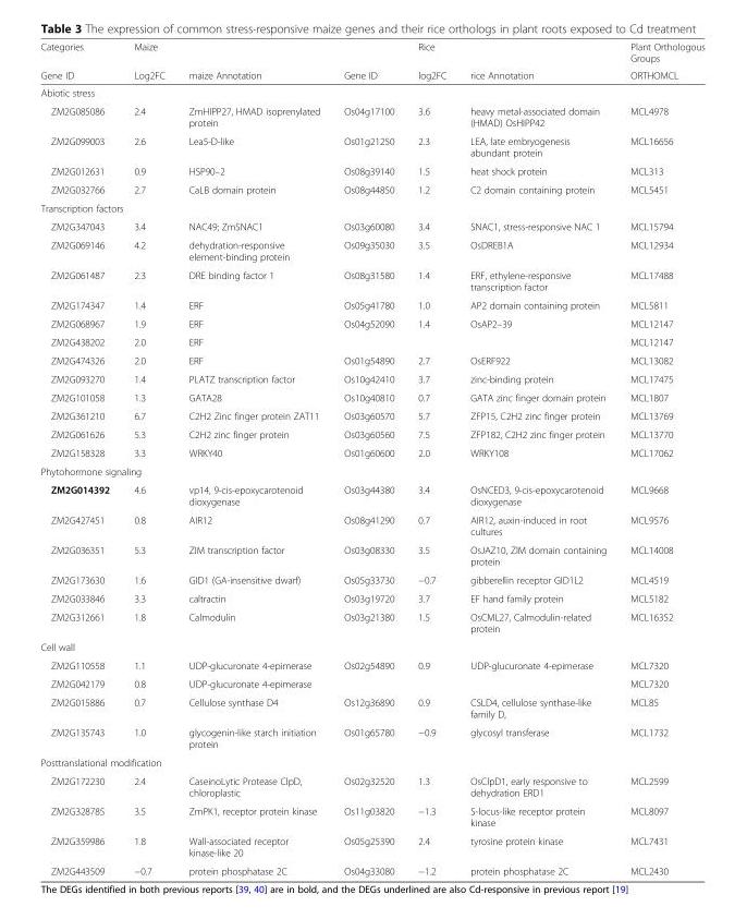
<table><thead><tr><td rowspan="2">Categories Gene ID</td><td rowspan="2">Maize Log2FC</td><td rowspan="2">maize Annotation</td><td rowspan="2">Gene ID</td><td rowspan="2">Rice log2FC</td><td rowspan="2">rice Annotation</td><td rowspan="2">Plant Orthologous Groups ORTHOMCL</td></tr><tr></tr></thead><tbody><tr><td colspan="7">Abiotic stress</td></tr><tr><td>ZM2G085086</td><td>2.4</td><td>ZmHIPP27, HMAD isoprenylated protein</td><td>Os04g17100</td><td>3.6</td><td>heavy metal-associated domain (HMAD) OsHIPP42</td><td>MCL4978</td></tr><tr><td>ZM2G099003</td><td>2.6</td><td>Lea5-D-like</td><td>Os01g21250</td><td>2.3</td><td>LEA, late embryogenesis abundant protein</td><td>MCL16656</td></tr><tr><td>ZM2G012631</td><td>0.9</td><td>HSP90–2</td><td>Os08g39140</td><td>1.5</td><td>heat shock protein</td><td>MCL313</td></tr><tr><td>ZM2G032766</td><td>2.7</td><td>CaLB domain protein</td><td>Os08g44850</td><td>1.2</td><td>C2 domain containing protein</td><td>MCL5451</td></tr><tr><td colspan="7">Transcription factors</td></tr><tr><td>ZM2G347043</td><td>3.4</td><td>NAC49; ZmSNAC1</td><td>Os03g60080</td><td>3.4</td><td>SNAC1, stress-responsive NAC 1</td><td>MCL15794</td></tr><tr><td>ZM2G069146</td><td>4.2</td><td>dehydration-responsive element-binding protein</td><td>Os09g35030</td><td>3.5</td><td>OsDREB1A</td><td>MCL12934</td></tr><tr><td>ZM2G061487</td><td>2.3</td><td>DRE binding factor 1</td><td>Os08g31580</td><td>1.4</td><td>ERF, ethylene-responsive transcription factor</td><td>MCL17488</td></tr><tr><td>ZM2G174347</td><td>1.4</td><td>ERF</td><td>Os05g41780</td><td>1.0</td><td>AP2 domain containing protein</td><td>MCL5811</td></tr><tr><td>ZM2G068967</td><td>1.9</td><td>ERF</td><td>Os04g52090</td><td>1.4</td><td>OsAP2–39</td><td>MCL12147</td></tr><tr><td>ZM2G438202</td><td>2.0</td><td>ERF</td><td></td><td></td><td></td><td>MCL12147</td></tr><tr><td>ZM2G474326</td><td>2.0</td><td>ERF</td><td>Os01g54890</td><td>2.7</td><td>OsERF922</td><td>MCL13082</td></tr><tr><td>ZM2G093270</td><td>1.4</td><td>PLATZ transcription factor</td><td>Os10g42410</td><td>3.7</td><td>zinc-binding protein</td><td>MCL17475</td></tr><tr><td>ZM2G101058</td><td>1.3</td><td>GATA28</td><td>Os10g40810</td><td>0.7</td><td>GATA zinc finger domain protein</td><td>MCL1807</td></tr><tr><td>ZM2G361210</td><td>6.7</td><td>C2H2 Zinc finger protein ZAT11</td><td>Os03g60570</td><td>5.7</td><td>ZFP15, C2H2 zinc finger protein</td><td>MCL13769</td></tr><tr><td>ZM2G061626</td><td>5.3</td><td>C2H2 zinc finger protein</td><td>Os03g60560</td><td>7.5</td><td>ZFP182, C2H2 zinc finger protein</td><td>MCL13770</td></tr><tr><td>ZM2G158328</td><td>3.3</td><td>WRKY40</td><td>Os01g60600</td><td>2.0</td><td>WRKY108</td><td>MCL17062</td></tr><tr><td colspan="7">Phytohormone signaling</td></tr><tr><td>ZM2G014392</td><td>4.6</td><td>vp14, 9-cis-epoxycarotenoid dioxygenase</td><td>Os03g44380</td><td>3.4</td><td>OsNCED3, 9-cis-epoxycarotenoid dioxygenase</td><td>MCL9668</td></tr><tr><td>ZM2G427451</td><td>0.8</td><td>AIR12</td><td>Os08g41290</td><td>0.7</td><td>AIR12, auxin-induced in root cultures</td><td>MCL9576</td></tr><tr><td>ZM2G036351</td><td>5.3</td><td>ZIM transcription factor</td><td>Os03g08330</td><td>3.5</td><td>OsJAZ10, ZIM domain containing protein</td><td>MCL14008</td></tr><tr><td>ZM2G173630</td><td>1.6</td><td>GID1 (GA-insensitive dwarf)</td><td>Os05g33730</td><td>−0.7</td><td>gibberellin receptor GID1L2</td><td>MCL4519</td></tr><tr><td>ZM2G033846</td><td>3.3</td><td>caltractin</td><td>Os03g19720</td><td>3.7</td><td>EF hand family protein</td><td>MCL5182</td></tr><tr><td>ZM2G312661</td><td>1.8</td><td>Calmodulin</td><td>Os03g21380</td><td>1.5</td><td>OsCML27, Calmodulin-related protein</td><td>MCL16352</td></tr><tr><td colspan="7">Cell wall</td></tr><tr><td>ZM2G110558</td><td>1.1</td><td>UDP-glucuronate 4-epimerase</td><td>Os02g54890</td><td>0.9</td><td>UDP-glucuronate 4-epimerase</td><td>MCL7320</td></tr><tr><td>ZM2G042179</td><td>0.8</td><td>UDP-glucuronate 4-epimerase</td><td></td><td></td><td></td><td>MCL7320</td></tr><tr><td>ZM2G015886</td><td>0.7</td><td>Cellulose synthase D4</td><td>Os12g36890</td><td>0.9</td><td>CSLD4, cellulose synthase-like family D,</td><td>MCL85</td></tr><tr><td>ZM2G135743</td><td>1.0</td><td>glycogenin-like starch initiation protein</td><td>Os01g65780</td><td>−0.9</td><td>glycosyl transferase</td><td>MCL1732</td></tr><tr><td colspan="7">Posttranslational modification</td></tr><tr><td>ZM2G172230</td><td>2.4</td><td>CaseinoLytic Protease ClpD, chloroplastic</td><td>Os02g32520</td><td>1.3</td><td>OsClpD1, early responsive to dehydration ERD1</td><td>MCL2599</td></tr><tr><td>ZM2G328785</td><td>3.5</td><td>ZmPK1, receptor protein kinase</td><td>Os11g03820</td><td>−1.3</td><td>S-locus-like receptor protein kinase</td><td>MCL8097</td></tr><tr><td>ZM2G359986</td><td>1.8</td><td>Wall-associated receptor kinase-like 20</td><td>Os05g25390</td><td>2.4</td><td>tyrosine protein kinase</td><td>MCL7431</td></tr><tr><td>ZM2G443509</td><td>−0.7</td><td>protein phosphatase 2C</td><td>Os04g33080</td><td>−1.2</td><td>protein phosphatase 2C</td><td>MCL2430</td></tr></tbody></table>